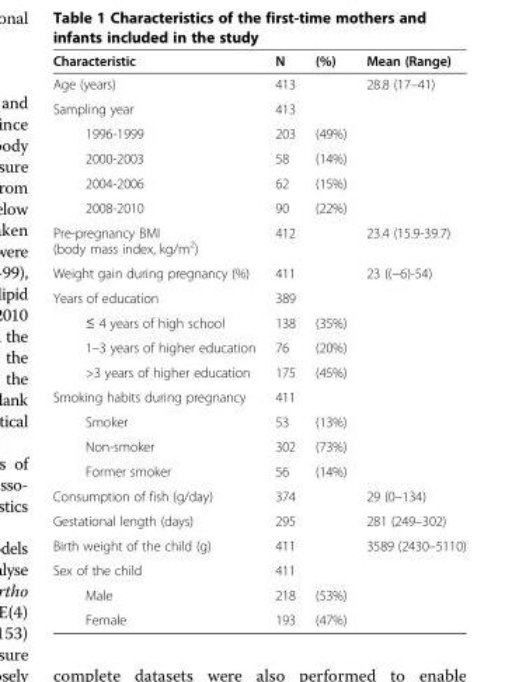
<table><thead><tr><td>Characteristic</td><td>N</td><td>(%)</td><td>Mean (Range)</td></tr></thead><tbody><tr><td>Age (years)</td><td>413</td><td></td><td>28.8 (17–41)</td></tr><tr><td>Sampling year</td><td>413</td><td></td><td></td></tr><tr><td>1996-1999</td><td>203</td><td>(49%)</td><td></td></tr><tr><td>2000-2003</td><td>58</td><td>(14%)</td><td></td></tr><tr><td>2004-2006</td><td>62</td><td>(15%)</td><td></td></tr><tr><td>2008-2010</td><td>90</td><td>(22%)</td><td></td></tr><tr><td>Pre-pregnancy BMI (body mass index, kg/m<sup>2</sup>)</td><td>412</td><td></td><td>23.4 (15.9-39.7)</td></tr><tr><td>Weight gain during pregnancy (%)</td><td>411</td><td></td><td>23 ((−6)-54)</td></tr><tr><td>Years of education</td><td>389</td><td></td><td></td></tr><tr><td>≤ 4 years of high school</td><td>138</td><td>(35%)</td><td></td></tr><tr><td>1–3 years of higher education</td><td>76</td><td>(20%)</td><td></td></tr><tr><td>&gt;3 years of higher education</td><td>175</td><td>(45%)</td><td></td></tr><tr><td>Smoking habits during pregnancy</td><td>411</td><td></td><td></td></tr><tr><td>Smoker</td><td>53</td><td>(13%)</td><td></td></tr><tr><td>Non-smoker</td><td>302</td><td>(73%)</td><td></td></tr><tr><td>Former smoker</td><td>56</td><td>(14%)</td><td></td></tr><tr><td>Consumption of fish (g/day)</td><td>374</td><td></td><td>29 (0–134)</td></tr><tr><td>Gestational length (days)</td><td>295</td><td></td><td>281 (249–302)</td></tr><tr><td>Birth weight of the child (g)</td><td>411</td><td></td><td>3589 (2430–5110)</td></tr><tr><td>Sex of the child</td><td>411</td><td></td><td></td></tr><tr><td>Male</td><td>218</td><td>(53%)</td><td></td></tr><tr><td>Female</td><td>193</td><td>(47%)</td><td></td></tr></tbody></table>